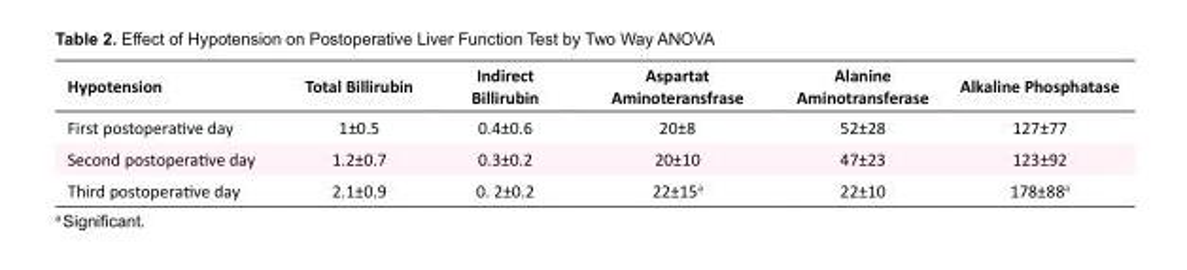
<table><tbody><tr><td>Hypotension</td><td>Total Billirubin</td><td>Indirect Billirubin</td><td>Aspartat Aminoteransfrase</td><td>Alanine Aminotransferase</td><td>Alkaline Phosphatase</td></tr><tr><td>First postoperative day</td><td>1±0.5</td><td>0.4±0.6</td><td>20±8</td><td>52±28</td><td>127±77</td></tr><tr><td>Second postoperative day</td><td>1.2±0.7</td><td>0.3±0.2</td><td>20±10</td><td>47±23</td><td>123±92</td></tr><tr><td>Third postoperative day</td><td>2.1±0.9</td><td>0. 2±0.2</td><td>22±15<sup>a</sup></td><td>22±10</td><td>178±88<sup>a</sup></td></tr></tbody></table>